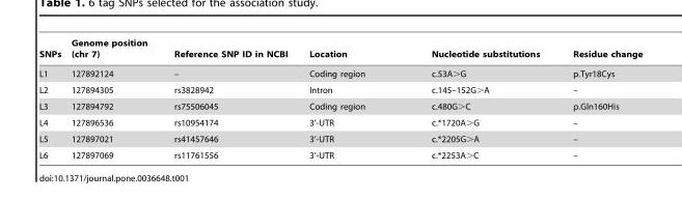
<table><thead><tr><td>SNPs</td><td>Genome position (chr 7)</td><td>Reference SNP ID in NCBI</td><td>Location</td><td>Nucleotide substitutions</td><td>Residue change</td></tr></thead><tbody><tr><td>L1</td><td>127892124</td><td>–</td><td>Coding region</td><td>c.53A&gt;G</td><td>p.Tyr18Cys</td></tr><tr><td>L2</td><td>127894305</td><td>rs3828942</td><td>Intron</td><td>c.145–152G&gt;A</td><td>–</td></tr><tr><td>L3</td><td>127894792</td><td>rs75506045</td><td>Coding region</td><td>c.480G&gt;C</td><td>p.Gln160His</td></tr><tr><td>L4</td><td>127896536</td><td>rs10954174</td><td>3’-UTR</td><td>c.*1720A&gt;G</td><td>–</td></tr><tr><td>L5</td><td>127897021</td><td>rs41457646</td><td>3’-UTR</td><td>c.*2205G&gt;A</td><td>–</td></tr><tr><td>L6</td><td>127897069</td><td>rs11761556</td><td>3’-UTR</td><td>c.*2253A&gt;C</td><td>–</td></tr></tbody></table>